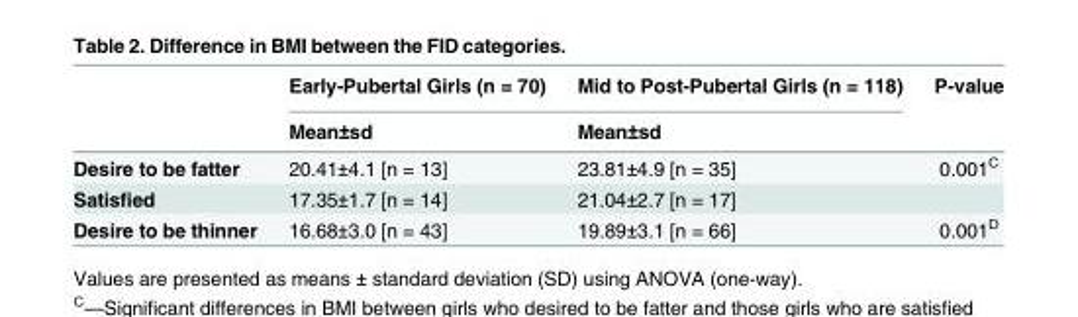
<table><thead><tr><td rowspan="2"></td><td rowspan="2">Early-Pubertal Girls (n = 70) Mean±sd</td><td rowspan="2">Mid to Post-Pubertal Girls (n = 118) Mean±sd</td><td rowspan="2">P-value</td></tr><tr></tr></thead><tbody><tr><td>Desire to be fatter</td><td>20.41±4.1 [n = 13]</td><td>23.81±4.9 [n = 35]</td><td>0.001<sup>C</sup></td></tr><tr><td>Satisfied</td><td>17.35±1.7 [n = 14]</td><td>21.04±2.7 [n = 17]</td><td></td></tr><tr><td>Desire to be thinner</td><td>16.68±3.0 [n = 43]</td><td>19.89±3.1 [n = 66]</td><td>0.001<sup>D</sup></td></tr></tbody></table>